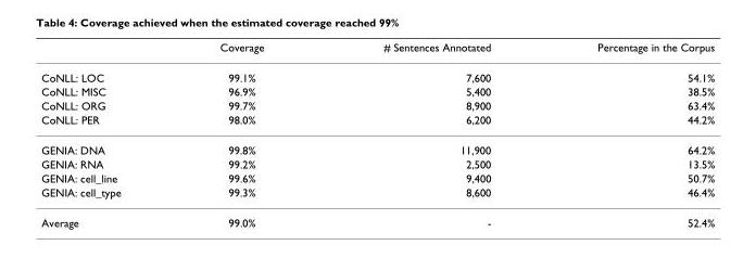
<table><thead><tr><td></td><td>Coverage</td><td># Sentences Annotated</td><td>Percentage in the Corpus</td></tr></thead><tbody><tr><td>CoNLL: LOC</td><td>99.1%</td><td>7,600</td><td>54.1%</td></tr><tr><td>CoNLL: MISC</td><td>96.9%</td><td>5,400</td><td>38.5%</td></tr><tr><td>CoNLL: ORG</td><td>99.7%</td><td>8,900</td><td>63.4%</td></tr><tr><td>CoNLL: PER</td><td>98.0%</td><td>6,200</td><td>44.2%</td></tr><tr><td>GENIA: DNA</td><td>99.8%</td><td>11,900</td><td>64.2%</td></tr><tr><td>GENIA: RNA</td><td>99.2%</td><td>2,500</td><td>13.5%</td></tr><tr><td>GENIA: cell_line</td><td>99.6%</td><td>9,400</td><td>50.7%</td></tr><tr><td>GENIA: cell_type</td><td>99.3%</td><td>8,600</td><td>46.4%</td></tr><tr><td>Average</td><td>99.0%</td><td>-</td><td>52.4%</td></tr></tbody></table>